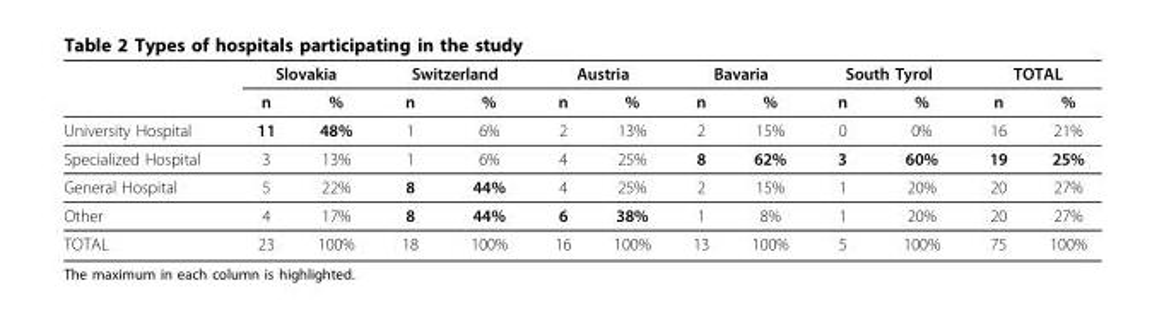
<table><thead><tr><td rowspan="2"></td><td colspan="2">Slovakia</td><td colspan="2">Switzerland</td><td colspan="2">Austria</td><td colspan="2">Bavaria</td><td colspan="2">South Tyrol</td><td colspan="2">TOTAL</td></tr><tr><td>n</td><td>%</td><td>n</td><td>%</td><td>n</td><td>%</td><td>n</td><td>%</td><td>n</td><td>%</td><td>n</td><td>%</td></tr></thead><tbody><tr><td>University Hospital</td><td>11</td><td>48%</td><td>1</td><td>6%</td><td>2</td><td>13%</td><td>2</td><td>15%</td><td>0</td><td>0%</td><td>16</td><td>21%</td></tr><tr><td>Specialized Hospital</td><td>3</td><td>13%</td><td>1</td><td>6%</td><td>4</td><td>25%</td><td>8</td><td>62%</td><td>3</td><td>60%</td><td>19</td><td>25%</td></tr><tr><td>General Hospital</td><td>5</td><td>22%</td><td>8</td><td>44%</td><td>4</td><td>25%</td><td>2</td><td>15%</td><td>1</td><td>20%</td><td>20</td><td>27%</td></tr><tr><td>Other</td><td>4</td><td>17%</td><td>8</td><td>44%</td><td>6</td><td>38%</td><td>1</td><td>8%</td><td>1</td><td>20%</td><td>20</td><td>27%</td></tr><tr><td>TOTAL</td><td>23</td><td>100%</td><td>18</td><td>100%</td><td>16</td><td>100%</td><td>13</td><td>100%</td><td>5</td><td>100%</td><td>75</td><td>100%</td></tr></tbody></table>